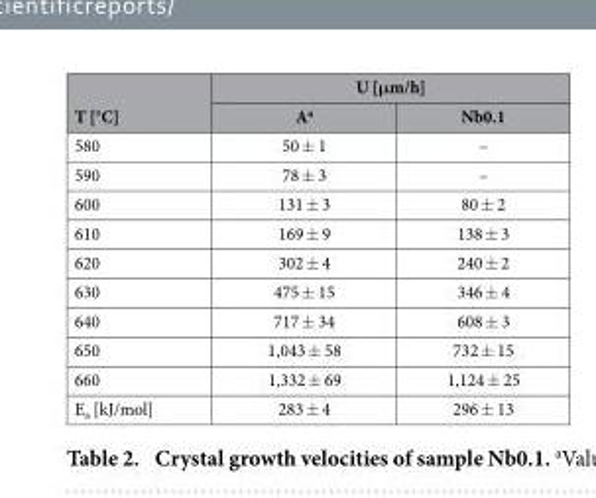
<table><thead><tr><td rowspan="2">T [°C]</td><td colspan="2">U [μm/h]</td></tr><tr><td>A<sup>a</sup></td><td>Nb0.1</td></tr></thead><tbody><tr><td>580</td><td>50 ± 1</td><td>–</td></tr><tr><td>590</td><td>78 ± 3</td><td>–</td></tr><tr><td>600</td><td>131 ± 3</td><td>80 ± 2</td></tr><tr><td>610</td><td>169 ± 9</td><td>138 ± 3</td></tr><tr><td>620</td><td>302 ± 4</td><td>240 ± 2</td></tr><tr><td>630</td><td>475 ± 15</td><td>346 ± 4</td></tr><tr><td>640</td><td>717 ± 34</td><td>608 ± 3</td></tr><tr><td>650</td><td>1,043 ± 58</td><td>732 ± 15</td></tr><tr><td>660</td><td>1,332 ± 69</td><td>1,124 ± 25</td></tr><tr><td>E<sub>a</sub> [kJ/mol]</td><td>283 ± 4</td><td>296 ± 13</td></tr></tbody></table>